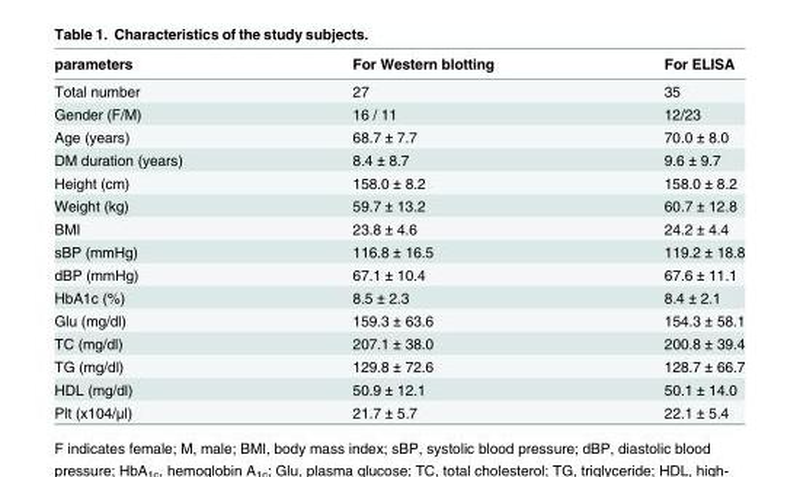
<table><thead><tr><td>parameters</td><td>For Western blotting</td><td>For ELISA</td></tr></thead><tbody><tr><td>Total number</td><td>27</td><td>35</td></tr><tr><td>Gender (F/M)</td><td>16 / 11</td><td>12/23</td></tr><tr><td>Age (years)</td><td>68.7 ± 7.7</td><td>70.0 ± 8.0</td></tr><tr><td>DM duration (years)</td><td>8.4 ± 8.7</td><td>9.6 ± 9.7</td></tr><tr><td>Height (cm)</td><td>158.0 ± 8.2</td><td>158.0 ± 8.2</td></tr><tr><td>Weight (kg)</td><td>59.7 ± 13.2</td><td>60.7 ± 12.8</td></tr><tr><td>BMI</td><td>23.8 ± 4.6</td><td>24.2 ± 4.4</td></tr><tr><td>sBP (mmHg)</td><td>116.8 ± 16.5</td><td>119.2 ± 18.8</td></tr><tr><td>dBP (mmHg)</td><td>67.1 ± 10.4</td><td>67.6 ± 11.1</td></tr><tr><td>HbA1c (%)</td><td>8.5 ± 2.3</td><td>8.4 ± 2.1</td></tr><tr><td>Glu (mg/dl)</td><td>159.3 ± 63.6</td><td>154.3 ± 58.1</td></tr><tr><td>TC (mg/dl)</td><td>207.1 ± 38.0</td><td>200.8 ± 39.4</td></tr><tr><td>TG (mg/dl)</td><td>129.8 ± 72.6</td><td>128.7 ± 66.7</td></tr><tr><td>HDL (mg/dl)</td><td>50.9 ± 12.1</td><td>50.1 ± 14.0</td></tr><tr><td>Plt (x104/μl)</td><td>21.7 ± 5.7</td><td>22.1 ± 5.4</td></tr></tbody></table>